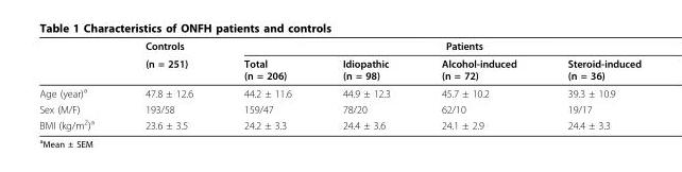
<table><thead><tr><td rowspan="2"></td><td rowspan="2">Controls (n = 251)</td><td colspan="4">Patients</td></tr><tr><td>Total (n = 206)</td><td>Idiopathic (n = 98)</td><td>Alcohol-induced (n = 72)</td><td>Steroid-induced (n = 36)</td></tr></thead><tbody><tr><td>Age (year)<sup>a</sup></td><td>47.8 ± 12.6</td><td>44.2 ± 11.6</td><td>44.9 ± 12.3</td><td>45.7 ± 10.2</td><td>39.3 ± 10.9</td></tr><tr><td>Sex (M/F)</td><td>193/58</td><td>159/47</td><td>78/20</td><td>62/10</td><td>19/17</td></tr><tr><td>BMI (kg/m<sup>2</sup>)<sup>a</sup></td><td>23.6 ± 3.5</td><td>24.2 ± 3.3</td><td>24.4 ± 3.6</td><td>24.1 ± 2.9</td><td>24.4 ± 3.3</td></tr></tbody></table>